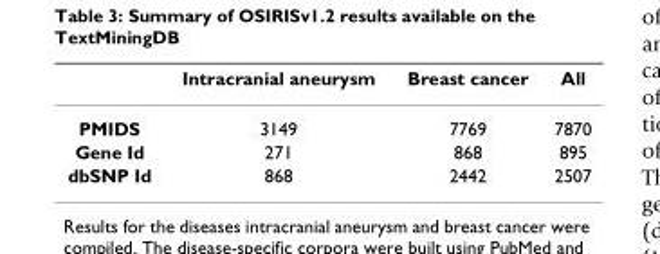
<table><thead><tr><td></td><td>Intracranial aneurysm</td><td>Breast cancer</td><td>All</td></tr></thead><tbody><tr><td>PMIDS</td><td>3149</td><td>7769</td><td>7870</td></tr><tr><td>Gene Id</td><td>271</td><td>868</td><td>895</td></tr><tr><td>dbSNP Id</td><td>868</td><td>2442</td><td>2507</td></tr></tbody></table>